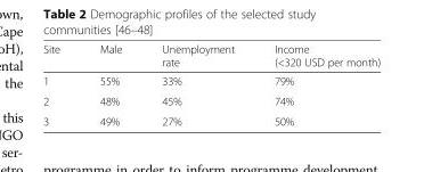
<table><thead><tr><td>Site</td><td>Male</td><td>Unemployment rate</td><td>Income (&lt;320 USD per month)</td></tr></thead><tbody><tr><td>1</td><td>55%</td><td>33%</td><td>79%</td></tr><tr><td>2</td><td>48%</td><td>45%</td><td>74%</td></tr><tr><td>3</td><td>49%</td><td>27%</td><td>50%</td></tr></tbody></table>